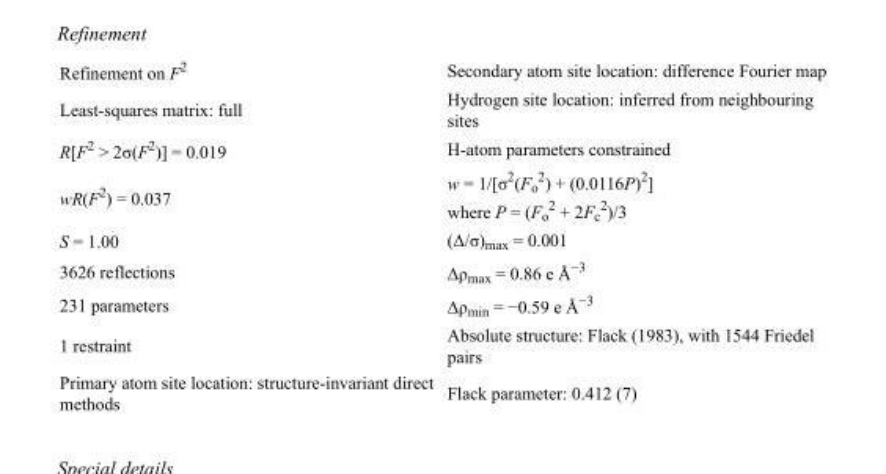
<table><tbody><tr><td>Refinement on F<sup>2</sup></td><td>Secondary atom site location: difference Fourier map</td></tr><tr><td>Least-squares matrix: full</td><td>Hydrogen site location: inferred from neighbouring sites</td></tr><tr><td>R[F<sup>2</sup> &gt; 2σ(F<sup>2</sup>)] = 0.019</td><td>H-atom parameters constrained</td></tr><tr><td>wR(F<sup>2</sup>) = 0.037</td><td>w = 1/[σ<sup>2</sup>(F<sub>o</sub> <sup>2</sup>) + (0.0116P)<sup>2</sup>] where P = (F<sub>o</sub> <sup>2</sup> + 2F<sub>c</sub> <sup>2</sup>)/3</td></tr><tr><td>S = 1.00</td><td>(Δ/σ)<sub>max</sub> = 0.001</td></tr><tr><td>3626 reflections</td><td>Δρ<sub>max</sub> = 0.86 e Å<sup>−3</sup></td></tr><tr><td>231 parameters</td><td>Δρ<sub>min</sub> = −0.59 e Å<sup>−3</sup></td></tr><tr><td>1 restraint</td><td>Absolute structure: Flack (1983), with 1544 Friedel pairs</td></tr><tr><td>Primary atom site location: structure-invariant direct methods</td><td>Flack parameter: 0.412 (7)</td></tr></tbody></table>